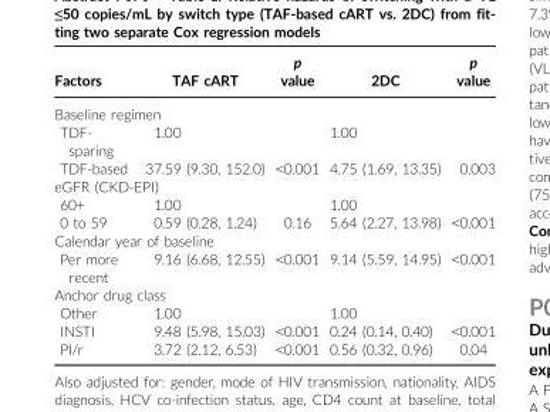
<table><thead><tr><td>Factors</td><td>TAF cART</td><td>p value</td><td>2DC</td><td>p value</td></tr></thead><tbody><tr><td colspan="5">Baseline regimen</td></tr><tr><td>TDF- sparing</td><td>1.00</td><td></td><td>1.00</td><td></td></tr><tr><td>TDF-based</td><td>37.59 (9.30, 152.0)</td><td>&lt;0.001</td><td>4.75 (1.69, 13.35)</td><td>0.003</td></tr><tr><td colspan="5">eGFR (CKD-EPI)</td></tr><tr><td>60+</td><td>1.00</td><td></td><td>1.00</td><td></td></tr><tr><td>0 to 59</td><td>0.59 (0.28, 1.24)</td><td>0.16</td><td>5.64 (2.27, 13.98)</td><td>&lt;0.001</td></tr><tr><td colspan="5">Calendar year of baseline</td></tr><tr><td>Per more recent</td><td>9.16 (6.68, 12.55)</td><td>&lt;0.001</td><td>9.14 (5.59, 14.95)</td><td>&lt;0.001</td></tr><tr><td colspan="5">Anchor drug class</td></tr><tr><td>Other</td><td>1.00</td><td></td><td>1.00</td><td></td></tr><tr><td>INSTI</td><td>9.48 (5.98, 15.03)</td><td>&lt;0.001</td><td>0.24 (0.14, 0.40)</td><td>&lt;0.001</td></tr><tr><td>PI/r</td><td>3.72 (2.12, 6.53)</td><td>&lt;0.001</td><td>0.56 (0.32, 0.96)</td><td>0.04</td></tr></tbody></table>